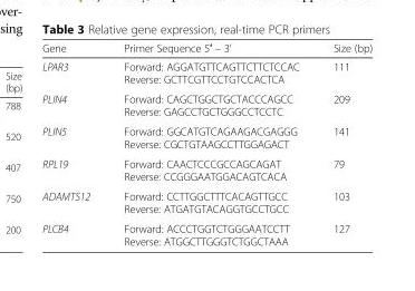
<table><thead><tr><td>Gene</td><td>Primer Sequence 5′ – 3’</td><td>Size (bp)</td></tr></thead><tbody><tr><td>LPAR3</td><td>Forward: AGGATGTTCAGTTCTTCTCCAC Reverse: GCTTCGTTCCTGTCCACTCA</td><td>111</td></tr><tr><td>PLIN4</td><td>Forward: CAGCTGGCTGCTACCCAGCC Reverse: GAGCCTGCTGGGCCTCCTC</td><td>209</td></tr><tr><td>PLIN5</td><td>Forward: GGCATGTCAGAAGACGAGGG Reverse: CGCTGTAAGCCTTGGAGACT</td><td>141</td></tr><tr><td>RPL19</td><td>Forward: CAACTCCCGCCAGCAGAT Reverse: CCGGGAATGGACAGTCACA</td><td>79</td></tr><tr><td>ADAMTS12</td><td>Forward: CCTTGGCTTTCACAGTTGCC Reverse: ATGATGTACAGGTGCCTGCC</td><td>103</td></tr><tr><td>PLCB4</td><td>Forward: ACCCTGGTCTGGGAATCCTT Reverse: ATGGCTTGGGTCTGGCTAAA</td><td>127</td></tr></tbody></table>